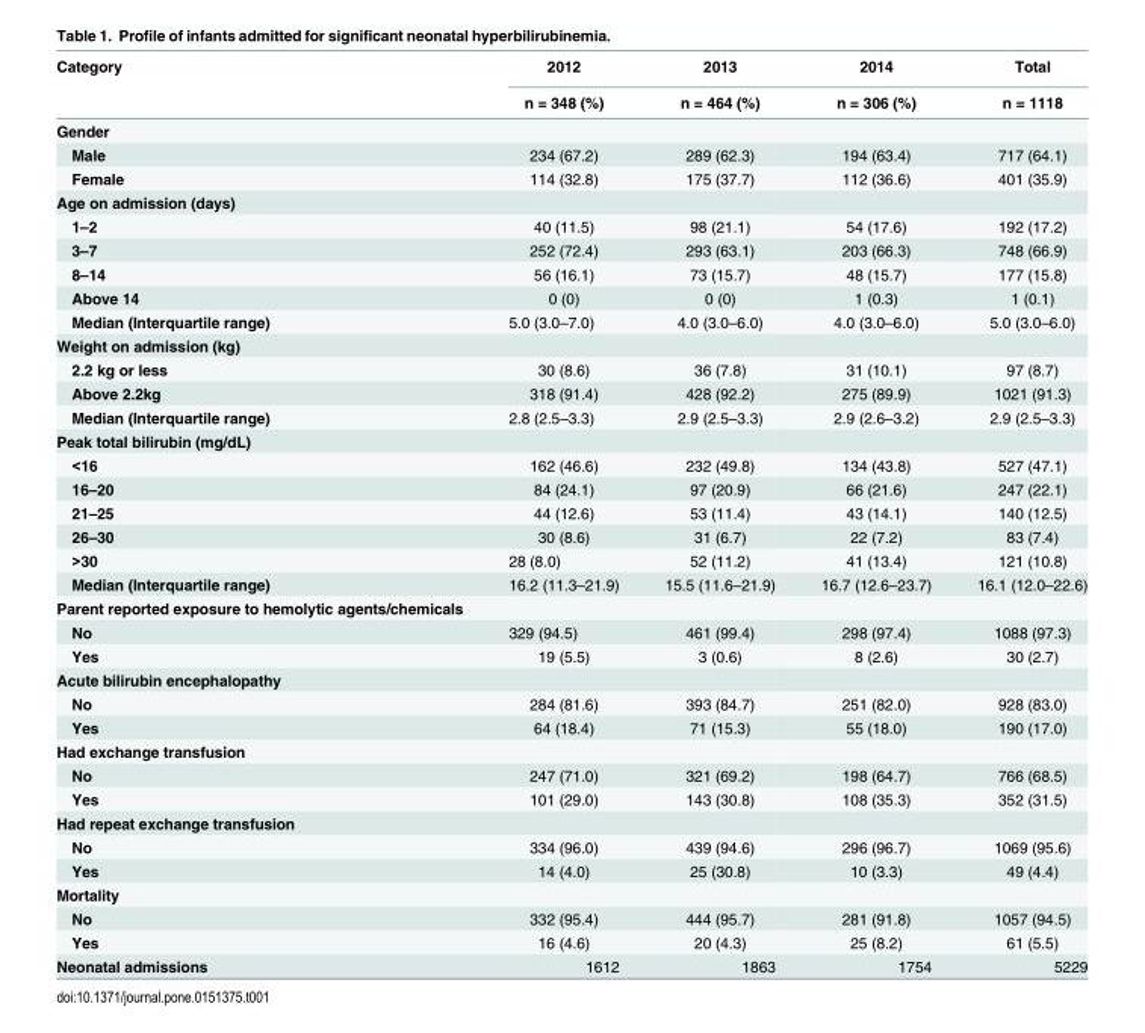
<table><thead><tr><td rowspan="2">Category</td><td rowspan="2">2012 n = 348 (%)</td><td rowspan="2">2013 n = 464 (%)</td><td rowspan="2">2014 n = 306 (%)</td><td rowspan="2">Total n = 1118</td></tr><tr></tr></thead><tbody><tr><td colspan="5">Gender</td></tr><tr><td>Male</td><td>234 (67.2)</td><td>289 (62.3)</td><td>194 (63.4)</td><td>717 (64.1)</td></tr><tr><td>Female</td><td>114 (32.8)</td><td>175 (37.7)</td><td>112 (36.6)</td><td>401 (35.9)</td></tr><tr><td colspan="5">Age on admission (days)</td></tr><tr><td>1–2</td><td>40 (11.5)</td><td>98 (21.1)</td><td>54 (17.6)</td><td>192 (17.2)</td></tr><tr><td>3–7</td><td>252 (72.4)</td><td>293 (63.1)</td><td>203 (66.3)</td><td>748 (66.9)</td></tr><tr><td>8–14</td><td>56 (16.1)</td><td>73 (15.7)</td><td>48 (15.7)</td><td>177 (15.8)</td></tr><tr><td>Above 14</td><td>0 (0)</td><td>0 (0)</td><td>1 (0.3)</td><td>1 (0.1)</td></tr><tr><td>Median (Interquartile range)</td><td>5.0 (3.0–7.0)</td><td>4.0 (3.0–6.0)</td><td>4.0 (3.0–6.0)</td><td>5.0 (3.0–6.0)</td></tr><tr><td colspan="5">Weight on admission (kg)</td></tr><tr><td>2.2 kg or less</td><td>30 (8.6)</td><td>36 (7.8)</td><td>31 (10.1)</td><td>97 (8.7)</td></tr><tr><td>Above 2.2kg</td><td>318 (91.4)</td><td>428 (92.2)</td><td>275 (89.9)</td><td>1021 (91.3)</td></tr><tr><td>Median (Interquartile range)</td><td>2.8 (2.5–3.3)</td><td>2.9 (2.5–3.3)</td><td>2.9 (2.6–3.2)</td><td>2.9 (2.5–3.3)</td></tr><tr><td colspan="5">Peak total bilirubin (mg/dL)</td></tr><tr><td>&lt;16</td><td>162 (46.6)</td><td>232 (49.8)</td><td>134 (43.8)</td><td>527 (47.1)</td></tr><tr><td>16–20</td><td>84 (24.1)</td><td>97 (20.9)</td><td>66 (21.6)</td><td>247 (22.1)</td></tr><tr><td>21–25</td><td>44 (12.6)</td><td>53 (11.4)</td><td>43 (14.1)</td><td>140 (12.5)</td></tr><tr><td>26–30</td><td>30 (8.6)</td><td>31 (6.7)</td><td>22 (7.2)</td><td>83 (7.4)</td></tr><tr><td>&gt;30</td><td>28 (8.0)</td><td>52 (11.2)</td><td>41 (13.4)</td><td>121 (10.8)</td></tr><tr><td>Median (Interquartile range)</td><td>16.2 (11.3–21.9)</td><td>15.5 (11.6–21.9)</td><td>16.7 (12.6–23.7)</td><td>16.1 (12.0–22.6)</td></tr><tr><td colspan="5">Parent reported exposure to hemolytic agents/chemicals</td></tr><tr><td>No</td><td>329 (94.5)</td><td>461 (99.4)</td><td>298 (97.4)</td><td>1088 (97.3)</td></tr><tr><td>Yes</td><td>19 (5.5)</td><td>3 (0.6)</td><td>8 (2.6)</td><td>30 (2.7)</td></tr><tr><td colspan="5">Acute bilirubin encephalopathy</td></tr><tr><td>No</td><td>284 (81.6)</td><td>393 (84.7)</td><td>251 (82.0)</td><td>928 (83.0)</td></tr><tr><td>Yes</td><td>64 (18.4)</td><td>71 (15.3)</td><td>55 (18.0)</td><td>190 (17.0)</td></tr><tr><td colspan="5">Had exchange transfusion</td></tr><tr><td>No</td><td>247 (71.0)</td><td>321 (69.2)</td><td>198 (64.7)</td><td>766 (68.5)</td></tr><tr><td>Yes</td><td>101 (29.0)</td><td>143 (30.8)</td><td>108 (35.3)</td><td>352 (31.5)</td></tr><tr><td colspan="5">Had repeat exchange transfusion</td></tr><tr><td>No</td><td>334 (96.0)</td><td>439 (94.6)</td><td>296 (96.7)</td><td>1069 (95.6)</td></tr><tr><td>Yes</td><td>14 (4.0)</td><td>25 (30.8)</td><td>10 (3.3)</td><td>49 (4.4)</td></tr><tr><td colspan="5">Mortality</td></tr><tr><td>No</td><td>332 (95.4)</td><td>444 (95.7)</td><td>281 (91.8)</td><td>1057 (94.5)</td></tr><tr><td>Yes</td><td>16 (4.6)</td><td>20 (4.3)</td><td>25 (8.2)</td><td>61 (5.5)</td></tr><tr><td>Neonatal admissions</td><td>1612</td><td>1863</td><td>1754</td><td>5229</td></tr></tbody></table>